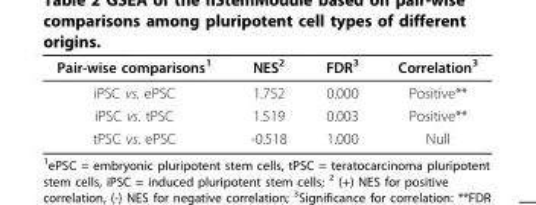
<table><thead><tr><td>Pair-wise comparisons<sup>1</sup></td><td>NES<sup>2</sup></td><td>FDR<sup>3</sup></td><td>Correlation<sup>3</sup></td></tr></thead><tbody><tr><td>iPSC vs. ePSC</td><td>1.752</td><td>0.000</td><td>Positive**</td></tr><tr><td>iPSC vs. tPSC</td><td>1.519</td><td>0.003</td><td>Positive**</td></tr><tr><td>tPSC vs. ePSC</td><td>-0.518</td><td>1.000</td><td>Null</td></tr></tbody></table>